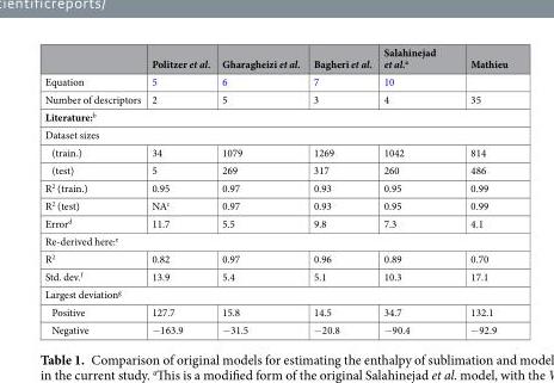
<table><thead><tr><td></td><td>Politzer et al.</td><td>Gharagheizi et al.</td><td>Bagheri et al.</td><td>Salahinejad et al.<sup>a</sup></td><td>Mathieu</td></tr></thead><tbody><tr><td>Equation</td><td>5</td><td>6</td><td>7</td><td>10</td><td></td></tr><tr><td>Number of descriptors</td><td>2</td><td>5</td><td>3</td><td>4</td><td>35</td></tr><tr><td colspan="6">Literature:<sup>b</sup></td></tr><tr><td colspan="6">Dataset sizes</td></tr><tr><td>(train.)</td><td>34</td><td>1079</td><td>1269</td><td>1042</td><td>814</td></tr><tr><td>(test)</td><td>5</td><td>269</td><td>317</td><td>260</td><td>486</td></tr><tr><td>R<sup>2</sup> (train.)</td><td>0.95</td><td>0.97</td><td>0.93</td><td>0.95</td><td>0.99</td></tr><tr><td>R<sup>2</sup> (test)</td><td>NA<sup>c</sup></td><td>0.97</td><td>0.93</td><td>0.95</td><td>0.99</td></tr><tr><td>Error<sup>d</sup></td><td>11.7</td><td>5.5</td><td>9.8</td><td>7.3</td><td>4.1</td></tr><tr><td colspan="6">Re-derived here:<sup>e</sup></td></tr><tr><td>R<sup>2</sup></td><td>0.82</td><td>0.97</td><td>0.96</td><td>0.89</td><td>0.70</td></tr><tr><td>Std. dev.<sup>f</sup></td><td>13.9</td><td>5.4</td><td>5.1</td><td>10.3</td><td>17.1</td></tr><tr><td colspan="6">Largest deviation<sup>g</sup></td></tr><tr><td>Positive</td><td>127.7</td><td>15.8</td><td>14.5</td><td>34.7</td><td>132.1</td></tr><tr><td>Negative</td><td>−163.9</td><td>−31.5</td><td>−20.8</td><td>−90.4</td><td>−92.9</td></tr></tbody></table>